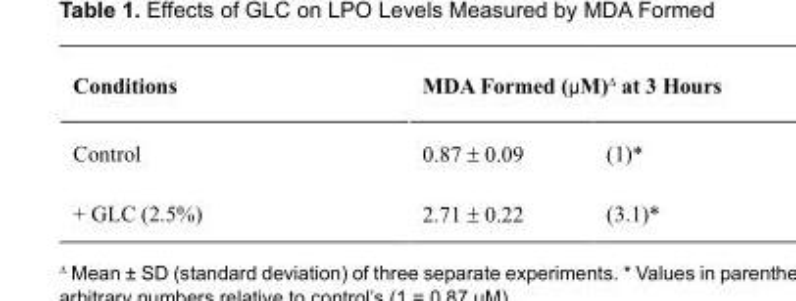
<table><thead><tr><td rowspan="2">Conditions Control</td><td colspan="2">MDA Formed (μM)∆ at 3 Hours</td></tr><tr><td>0.87 ± 0.09</td><td>(1)*</td></tr></thead><tbody><tr><td>+ GLC (2.5%)</td><td>2.71 ± 0.22</td><td>(3.1)*</td></tr></tbody></table>